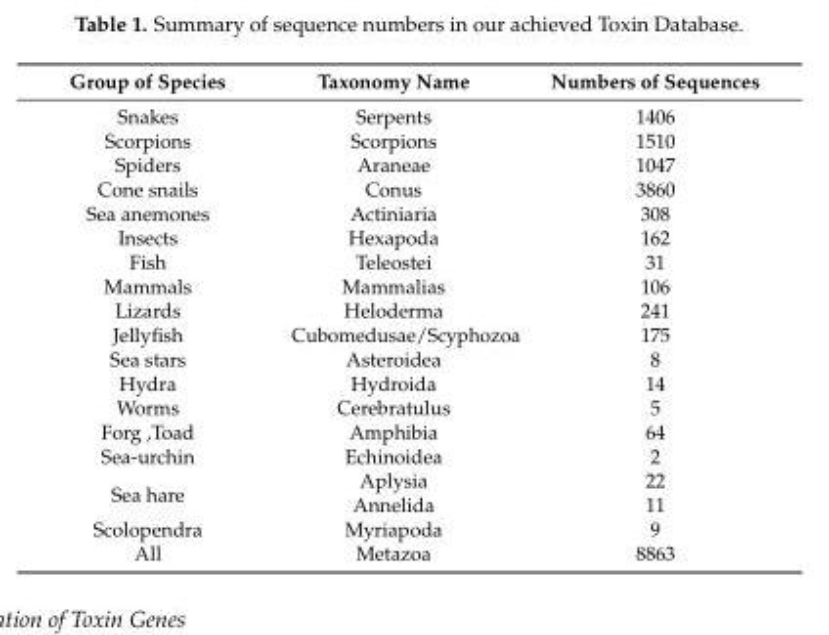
<table><thead><tr><td>Group of Species</td><td>Taxonomy Name</td><td>Numbers of Sequences</td></tr></thead><tbody><tr><td>Snakes</td><td>Serpents</td><td>1406</td></tr><tr><td>Scorpions</td><td>Scorpions</td><td>1510</td></tr><tr><td>Spiders</td><td>Araneae</td><td>1047</td></tr><tr><td>Cone snails</td><td>Conus</td><td>3860</td></tr><tr><td>Sea anemones</td><td>Actiniaria</td><td>308</td></tr><tr><td>Insects</td><td>Hexapoda</td><td>162</td></tr><tr><td>Fish</td><td>Teleostei</td><td>31</td></tr><tr><td>Mammals</td><td>Mammalias</td><td>106</td></tr><tr><td>Lizards</td><td>Heloderma</td><td>241</td></tr><tr><td>Jellyfish</td><td>Cubomedusae/Scyphozoa</td><td>175</td></tr><tr><td>Sea stars</td><td>Asteroidea</td><td>8</td></tr><tr><td>Hydra</td><td>Hydroida</td><td>14</td></tr><tr><td>Worms</td><td>Cerebratulus</td><td>5</td></tr><tr><td>Forg ,Toad</td><td>Amphibia</td><td>64</td></tr><tr><td>Sea-urchin</td><td>Echinoidea</td><td>2</td></tr><tr><td rowspan="2">Sea hare</td><td>Aplysia</td><td>22</td></tr><tr><td>Annelida</td><td>11</td></tr><tr><td>Scolopendra</td><td>Myriapoda</td><td>9</td></tr><tr><td>All</td><td>Metazoa</td><td>8863</td></tr></tbody></table>